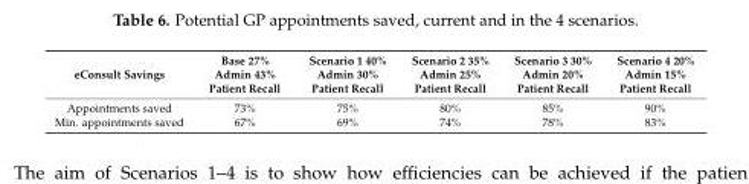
<table><thead><tr><td>eConsult Savings</td><td>Base 27% Admin 43% Patient Recall</td><td>Scenario 1 40% Admin 30% Patient Recall</td><td>Scenario 2 35% Admin 25% Patient Recall</td><td>Scenario 3 30% Admin 20% Patient Recall</td><td>Scenario 4 20% Admin 15% Patient Recall</td></tr></thead><tbody><tr><td>Appointments saved</td><td>73%</td><td>75%</td><td>80%</td><td>85%</td><td>90%</td></tr><tr><td>Min. appointments saved</td><td>67%</td><td>69%</td><td>74%</td><td>78%</td><td>83%</td></tr></tbody></table>